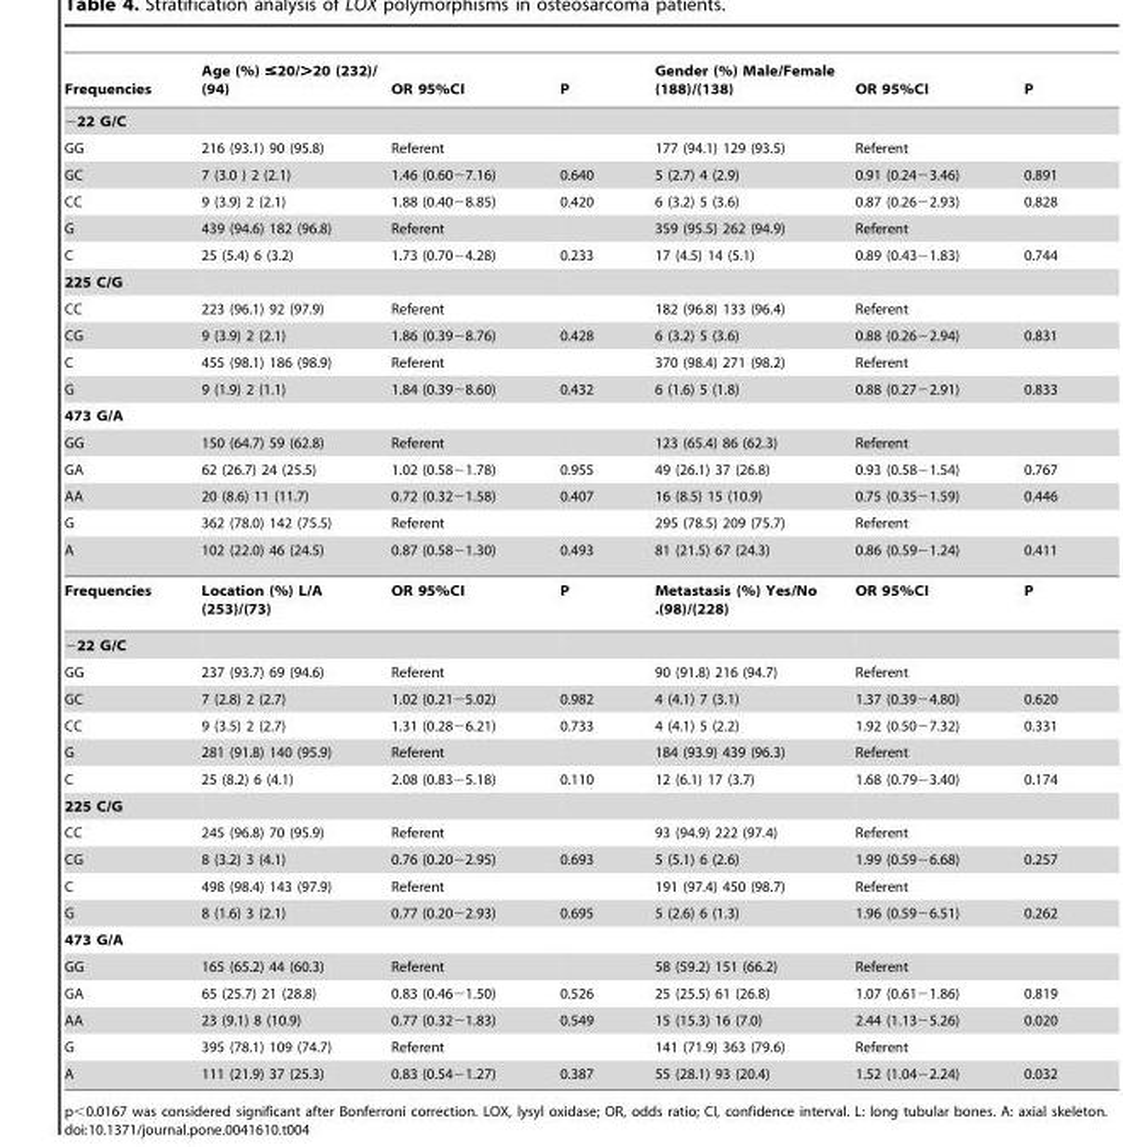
<table><thead><tr><td>Frequencies</td><td>Age (%) ≤20/&gt;20 (232)/ (94)</td><td>OR 95%CI</td><td>P</td><td>Gender (%) Male/Female (188)/(138)</td><td>OR 95%CI</td><td>P</td></tr></thead><tbody><tr><td colspan="7">−22 G/C</td></tr><tr><td>GG</td><td>216 (93.1) 90 (95.8)</td><td>Referent</td><td></td><td>177 (94.1) 129 (93.5)</td><td>Referent</td><td></td></tr><tr><td>GC</td><td>7 (3.0 ) 2 (2.1)</td><td>1.46 (0.60−7.16)</td><td>0.640</td><td>5 (2.7) 4 (2.9)</td><td>0.91 (0.24−3.46)</td><td>0.891</td></tr><tr><td>CC</td><td>9 (3.9) 2 (2.1)</td><td>1.88 (0.40−8.85)</td><td>0.420</td><td>6 (3.2) 5 (3.6)</td><td>0.87 (0.26−2.93)</td><td>0.828</td></tr><tr><td>G</td><td>439 (94.6) 182 (96.8)</td><td>Referent</td><td></td><td>359 (95.5) 262 (94.9)</td><td>Referent</td><td></td></tr><tr><td>C</td><td>25 (5.4) 6 (3.2)</td><td>1.73 (0.70−4.28)</td><td>0.233</td><td>17 (4.5) 14 (5.1)</td><td>0.89 (0.43−1.83)</td><td>0.744</td></tr><tr><td colspan="7">225 C/G</td></tr><tr><td>CC</td><td>223 (96.1) 92 (97.9)</td><td>Referent</td><td></td><td>182 (96.8) 133 (96.4)</td><td>Referent</td><td></td></tr><tr><td>CG</td><td>9 (3.9) 2 (2.1)</td><td>1.86 (0.39−8.76)</td><td>0.428</td><td>6 (3.2) 5 (3.6)</td><td>0.88 (0.26−2.94)</td><td>0.831</td></tr><tr><td>C</td><td>455 (98.1) 186 (98.9)</td><td>Referent</td><td></td><td>370 (98.4) 271 (98.2)</td><td>Referent</td><td></td></tr><tr><td>G</td><td>9 (1.9) 2 (1.1)</td><td>1.84 (0.39−8.60)</td><td>0.432</td><td>6 (1.6) 5 (1.8)</td><td>0.88 (0.27−2.91)</td><td>0.833</td></tr><tr><td colspan="7">473 G/A</td></tr><tr><td>GG</td><td>150 (64.7) 59 (62.8)</td><td>Referent</td><td></td><td>123 (65.4) 86 (62.3)</td><td>Referent</td><td></td></tr><tr><td>GA</td><td>62 (26.7) 24 (25.5)</td><td>1.02 (0.58−1.78)</td><td>0.955</td><td>49 (26.1) 37 (26.8)</td><td>0.93 (0.58−1.54)</td><td>0.767</td></tr><tr><td>AA</td><td>20 (8.6) 11 (11.7)</td><td>0.72 (0.32−1.58)</td><td>0.407</td><td>16 (8.5) 15 (10.9)</td><td>0.75 (0.35−1.59)</td><td>0.446</td></tr><tr><td>G</td><td>362 (78.0) 142 (75.5)</td><td>Referent</td><td></td><td>295 (78.5) 209 (75.7)</td><td>Referent</td><td></td></tr><tr><td>A</td><td>102 (22.0) 46 (24.5)</td><td>0.87 (0.58−1.30)</td><td>0.493</td><td>81 (21.5) 67 (24.3)</td><td>0.86 (0.59−1.24)</td><td>0.411</td></tr><tr><td>Frequencies</td><td>Location (%) L/A (253)/(73)</td><td>OR 95%CI</td><td>P</td><td>Metastasis (%) Yes/No .(98)/(228)</td><td>OR 95%CI</td><td>P</td></tr><tr><td colspan="7">−22 G/C</td></tr><tr><td>GG</td><td>237 (93.7) 69 (94.6)</td><td>Referent</td><td></td><td>90 (91.8) 216 (94.7)</td><td>Referent</td><td></td></tr><tr><td>GC</td><td>7 (2.8) 2 (2.7)</td><td>1.02 (0.21−5.02)</td><td>0.982</td><td>4 (4.1) 7 (3.1)</td><td>1.37 (0.39−4.80)</td><td>0.620</td></tr><tr><td>CC</td><td>9 (3.5) 2 (2.7)</td><td>1.31 (0.28−6.21)</td><td>0.733</td><td>4 (4.1) 5 (2.2)</td><td>1.92 (0.50−7.32)</td><td>0.331</td></tr><tr><td>G</td><td>281 (91.8) 140 (95.9)</td><td>Referent</td><td></td><td>184 (93.9) 439 (96.3)</td><td>Referent</td><td></td></tr><tr><td>C</td><td>25 (8.2) 6 (4.1)</td><td>2.08 (0.83−5.18)</td><td>0.110</td><td>12 (6.1) 17 (3.7)</td><td>1.68 (0.79−3.40)</td><td>0.174</td></tr><tr><td colspan="7">225 C/G</td></tr><tr><td>CC</td><td>245 (96.8) 70 (95.9)</td><td>Referent</td><td></td><td>93 (94.9) 222 (97.4)</td><td>Referent</td><td></td></tr><tr><td>CG</td><td>8 (3.2) 3 (4.1)</td><td>0.76 (0.20−2.95)</td><td>0.693</td><td>5 (5.1) 6 (2.6)</td><td>1.99 (0.59−6.68)</td><td>0.257</td></tr><tr><td>C</td><td>498 (98.4) 143 (97.9)</td><td>Referent</td><td></td><td>191 (97.4) 450 (98.7)</td><td>Referent</td><td></td></tr><tr><td>G</td><td>8 (1.6) 3 (2.1)</td><td>0.77 (0.20−2.93)</td><td>0.695</td><td>5 (2.6) 6 (1.3)</td><td>1.96 (0.59−6.51)</td><td>0.262</td></tr><tr><td colspan="7">473 G/A</td></tr><tr><td>GG</td><td>165 (65.2) 44 (60.3)</td><td>Referent</td><td></td><td>58 (59.2) 151 (66.2)</td><td>Referent</td><td></td></tr><tr><td>GA</td><td>65 (25.7) 21 (28.8)</td><td>0.83 (0.46−1.50)</td><td>0.526</td><td>25 (25.5) 61 (26.8)</td><td>1.07 (0.61−1.86)</td><td>0.819</td></tr><tr><td>AA</td><td>23 (9.1) 8 (10.9)</td><td>0.77 (0.32−1.83)</td><td>0.549</td><td>15 (15.3) 16 (7.0)</td><td>2.44 (1.13−5.26)</td><td>0.020</td></tr><tr><td>G</td><td>395 (78.1) 109 (74.7)</td><td>Referent</td><td></td><td>141 (71.9) 363 (79.6)</td><td>Referent</td><td></td></tr><tr><td>A</td><td>111 (21.9) 37 (25.3)</td><td>0.83 (0.54−1.27)</td><td>0.387</td><td>55 (28.1) 93 (20.4)</td><td>1.52 (1.04−2.24)</td><td>0.032</td></tr></tbody></table>